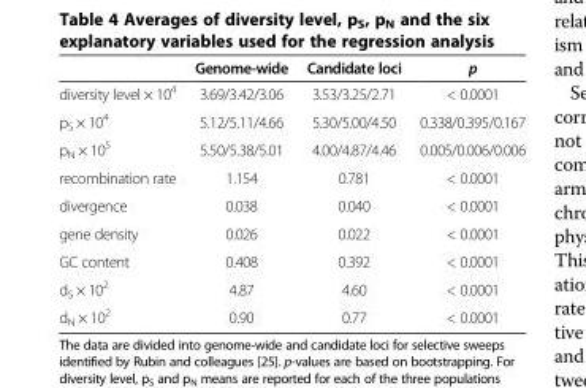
<table><thead><tr><td></td><td>Genome-wide</td><td>Candidate loci</td><td>p</td></tr></thead><tbody><tr><td>diversity level × 10<sup>4</sup></td><td>3.69/3.42/3.06</td><td>3.53/3.25/2.71</td><td>&lt; 0.0001</td></tr><tr><td>p<sub>S</sub> × 10<sup>4</sup></td><td>5.12/5.11/4.66</td><td>5.30/5.00/4.50</td><td>0.338/0.395/0.167</td></tr><tr><td>p<sub>N</sub> × 10<sup>5</sup></td><td>5.50/5.38/5.01</td><td>4.00/4.87/4.46</td><td>0.005/0.006/0.006</td></tr><tr><td>recombination rate</td><td>1.154</td><td>0.781</td><td>&lt; 0.0001</td></tr><tr><td>divergence</td><td>0.038</td><td>0.040</td><td>&lt; 0.0001</td></tr><tr><td>gene density</td><td>0.026</td><td>0.022</td><td>&lt; 0.0001</td></tr><tr><td>GC content</td><td>0.408</td><td>0.392</td><td>&lt; 0.0001</td></tr><tr><td>d<sub>S</sub> × 10<sup>2</sup></td><td>4.87</td><td>4.60</td><td>&lt; 0.0001</td></tr><tr><td>d<sub>N</sub> × 10<sup>2</sup></td><td>0.90</td><td>0.77</td><td>&lt; 0.0001</td></tr></tbody></table>